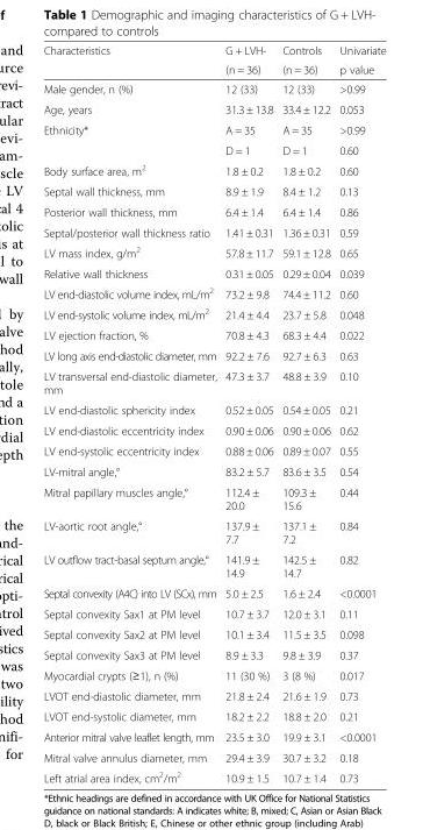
<table><thead><tr><td rowspan="2">Characteristics</td><td rowspan="2">G + LVH- (n = 36)</td><td rowspan="2">Controls (n = 36)</td><td rowspan="2">Univariate p value</td></tr><tr></tr></thead><tbody><tr><td>Male gender, n (%)</td><td>12 (33)</td><td>12 (33)</td><td>&gt;0.99</td></tr><tr><td>Age, years</td><td>31.3 ± 13.8</td><td>33.4 ± 12.2</td><td>0.053</td></tr><tr><td rowspan="2">Ethnicity*</td><td>A = 35</td><td>A = 35</td><td>&gt;0.99</td></tr><tr><td>D = 1</td><td>D = 1</td><td>0.60</td></tr><tr><td>Body surface area, m<sup>2</sup></td><td>1.8 ± 0.2</td><td>1.8 ± 0.2</td><td>0.60</td></tr><tr><td>Septal wall thickness, mm</td><td>8.9 ± 1.9</td><td>8.4 ± 1.2</td><td>0.13</td></tr><tr><td>Posterior wall thickness, mm</td><td>6.4 ± 1.4</td><td>6.4 ± 1.4</td><td>0.86</td></tr><tr><td>Septal/posterior wall thickness ratio</td><td>1.41 ± 0.31</td><td>1.36 ± 0.31</td><td>0.59</td></tr><tr><td>LV mass index, g/m<sup>2</sup></td><td>57.8 ± 11.7</td><td>59.1 ± 12.8</td><td>0.65</td></tr><tr><td>Relative wall thickness</td><td>0.31 ± 0.05</td><td>0.29 ± 0.04</td><td>0.039</td></tr><tr><td>LV end-diastolic volume index, mL/m<sup>2</sup></td><td>73.2 ± 9.8</td><td>74.4 ± 11.2</td><td>0.60</td></tr><tr><td>LV end-systolic volume index, mL/m<sup>2</sup></td><td>21.4 ± 4.4</td><td>23.7 ± 5.8</td><td>0.048</td></tr><tr><td>LV ejection fraction, %</td><td>70.8 ± 4.3</td><td>68.3 ± 4.4</td><td>0.022</td></tr><tr><td>LV long axis end-diastolic diameter, mm</td><td>92.2 ± 7.6</td><td>92.7 ± 6.3</td><td>0.63</td></tr><tr><td>LV transversal end-diastolic diameter, mm</td><td>47.3 ± 3.7</td><td>48.8 ± 3.9</td><td>0.10</td></tr><tr><td>LV end-diastolic sphericity index</td><td>0.52 ± 0.05</td><td>0.54 ± 0.05</td><td>0.21</td></tr><tr><td>LV end-diastolic eccentricity index</td><td>0.90 ± 0.06</td><td>0.90 ± 0.06</td><td>0.62</td></tr><tr><td>LV end-systolic eccentricity index</td><td>0.88 ± 0.06</td><td>0.89 ± 0.07</td><td>0.55</td></tr><tr><td>LV-mitral angle,°</td><td>83.2 ± 5.7</td><td>83.6 ± 3.5</td><td>0.54</td></tr><tr><td>Mitral papillary muscles angle,°</td><td>112.4 ± 20.0</td><td>109.3 ± 15.6</td><td>0.44</td></tr><tr><td>LV-aortic root angle,°</td><td>137.9 ± 7.7</td><td>137.1 ± 7.2</td><td>0.84</td></tr><tr><td>LV outflow tract-basal septum angle,°</td><td>141.9 ± 14.9</td><td>142.5 ± 14.7</td><td>0.82</td></tr><tr><td>Septal convexity (A4C) into LV (SCx), mm</td><td>5.0 ± 2.5</td><td>1.6 ± 2.4</td><td>&lt;0.0001</td></tr><tr><td>Septal convexity Sax1 at PM level</td><td>10.7 ± 3.7</td><td>12.0 ± 3.1</td><td>0.11</td></tr><tr><td>Septal convexity Sax2 at PM level</td><td>10.1 ± 3.4</td><td>11.5 ± 3.5</td><td>0.098</td></tr><tr><td>Septal convexity Sax3 at PM level</td><td>8.9 ± 3.3</td><td>9.8 ± 3.9</td><td>0.37</td></tr><tr><td>Myocardial crypts (≥1), n (%)</td><td>11 (30 %)</td><td>3 (8 %)</td><td>0.017</td></tr><tr><td>LVOT end-diastolic diameter, mm</td><td>21.8 ± 2.4</td><td>21.6 ± 1.9</td><td>0.73</td></tr><tr><td>LVOT end-systolic diameter, mm</td><td>18.2 ± 2.2</td><td>18.8 ± 2.0</td><td>0.21</td></tr><tr><td>Anterior mitral valve leaflet length, mm</td><td>23.5 ± 3.0</td><td>19.9 ± 3.1</td><td>&lt;0.0001</td></tr><tr><td>Mitral valve annulus diameter, mm</td><td>29.4 ± 3.9</td><td>30.7 ± 3.2</td><td>0.18</td></tr><tr><td>Left atrial area index, cm<sup>2</sup>/m<sup>2</sup></td><td>10.9 ± 1.5</td><td>10.7 ± 1.4</td><td>0.73</td></tr></tbody></table>